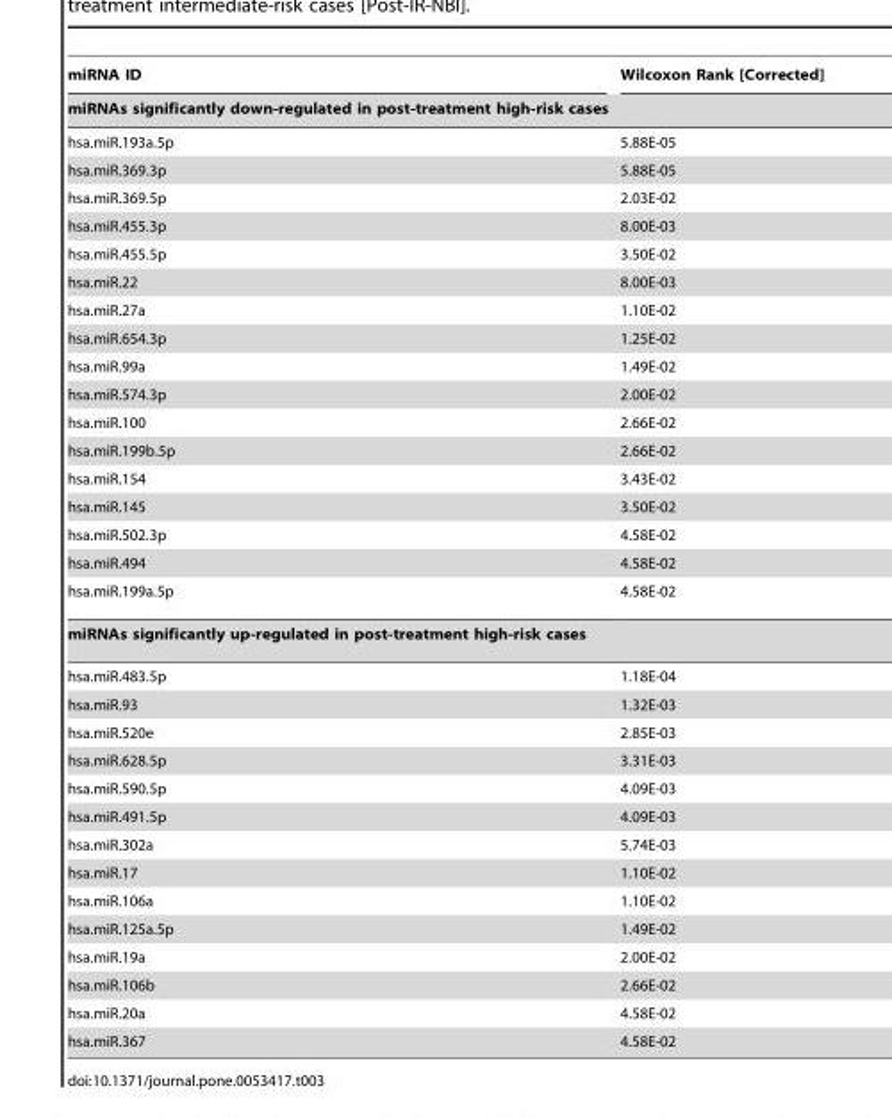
<table><thead><tr><td>miRNA ID</td><td>Wilcoxon Rank [Corrected]</td></tr><tr><td colspan="2">miRNAs significantly down-regulated in post-treatment high-risk cases</td></tr></thead><tbody><tr><td>hsa.miR.193a.5p</td><td>5.88E-05</td></tr><tr><td>hsa.miR.369.3p</td><td>5.88E-05</td></tr><tr><td>hsa.miR.369.5p</td><td>2.03E-02</td></tr><tr><td>hsa.miR.455.3p</td><td>8.00E-03</td></tr><tr><td>hsa.miR.455.5p</td><td>3.50E-02</td></tr><tr><td>hsa.miR.22</td><td>8.00E-03</td></tr><tr><td>hsa.miR.27a</td><td>1.10E-02</td></tr><tr><td>hsa.miR.654.3p</td><td>1.25E-02</td></tr><tr><td>hsa.miR.99a</td><td>1.49E-02</td></tr><tr><td>hsa.miR.574.3p</td><td>2.00E-02</td></tr><tr><td>hsa.miR.100</td><td>2.66E-02</td></tr><tr><td>hsa.miR.199b.5p</td><td>2.66E-02</td></tr><tr><td>hsa.miR.154</td><td>3.43E-02</td></tr><tr><td>hsa.miR.145</td><td>3.50E-02</td></tr><tr><td>hsa.miR.502.3p</td><td>4.58E-02</td></tr><tr><td>hsa.miR.494</td><td>4.58E-02</td></tr><tr><td>hsa.miR.199a.5p</td><td>4.58E-02</td></tr><tr><td colspan="2">miRNAs significantly up-regulated in post-treatment high-risk cases</td></tr><tr><td>hsa.miR.483.5p</td><td>1.18E-04</td></tr><tr><td>hsa.miR.93</td><td>1.32E-03</td></tr><tr><td>hsa.miR.520e</td><td>2.85E-03</td></tr><tr><td>hsa.miR.628.5p</td><td>3.31E-03</td></tr><tr><td>hsa.miR.590.5p</td><td>4.09E-03</td></tr><tr><td>hsa.miR.491.5p</td><td>4.09E-03</td></tr><tr><td>hsa.miR.302a</td><td>5.74E-03</td></tr><tr><td>hsa.miR.17</td><td>1.10E-02</td></tr><tr><td>hsa.miR.106a</td><td>1.10E-02</td></tr><tr><td>hsa.miR.125a.5p</td><td>1.49E-02</td></tr><tr><td>hsa.miR.19a</td><td>2.00E-02</td></tr><tr><td>hsa.miR.106b</td><td>2.66E-02</td></tr><tr><td>hsa.miR.20a</td><td>4.58E-02</td></tr><tr><td>hsa.miR.367</td><td>4.58E-02</td></tr></tbody></table>